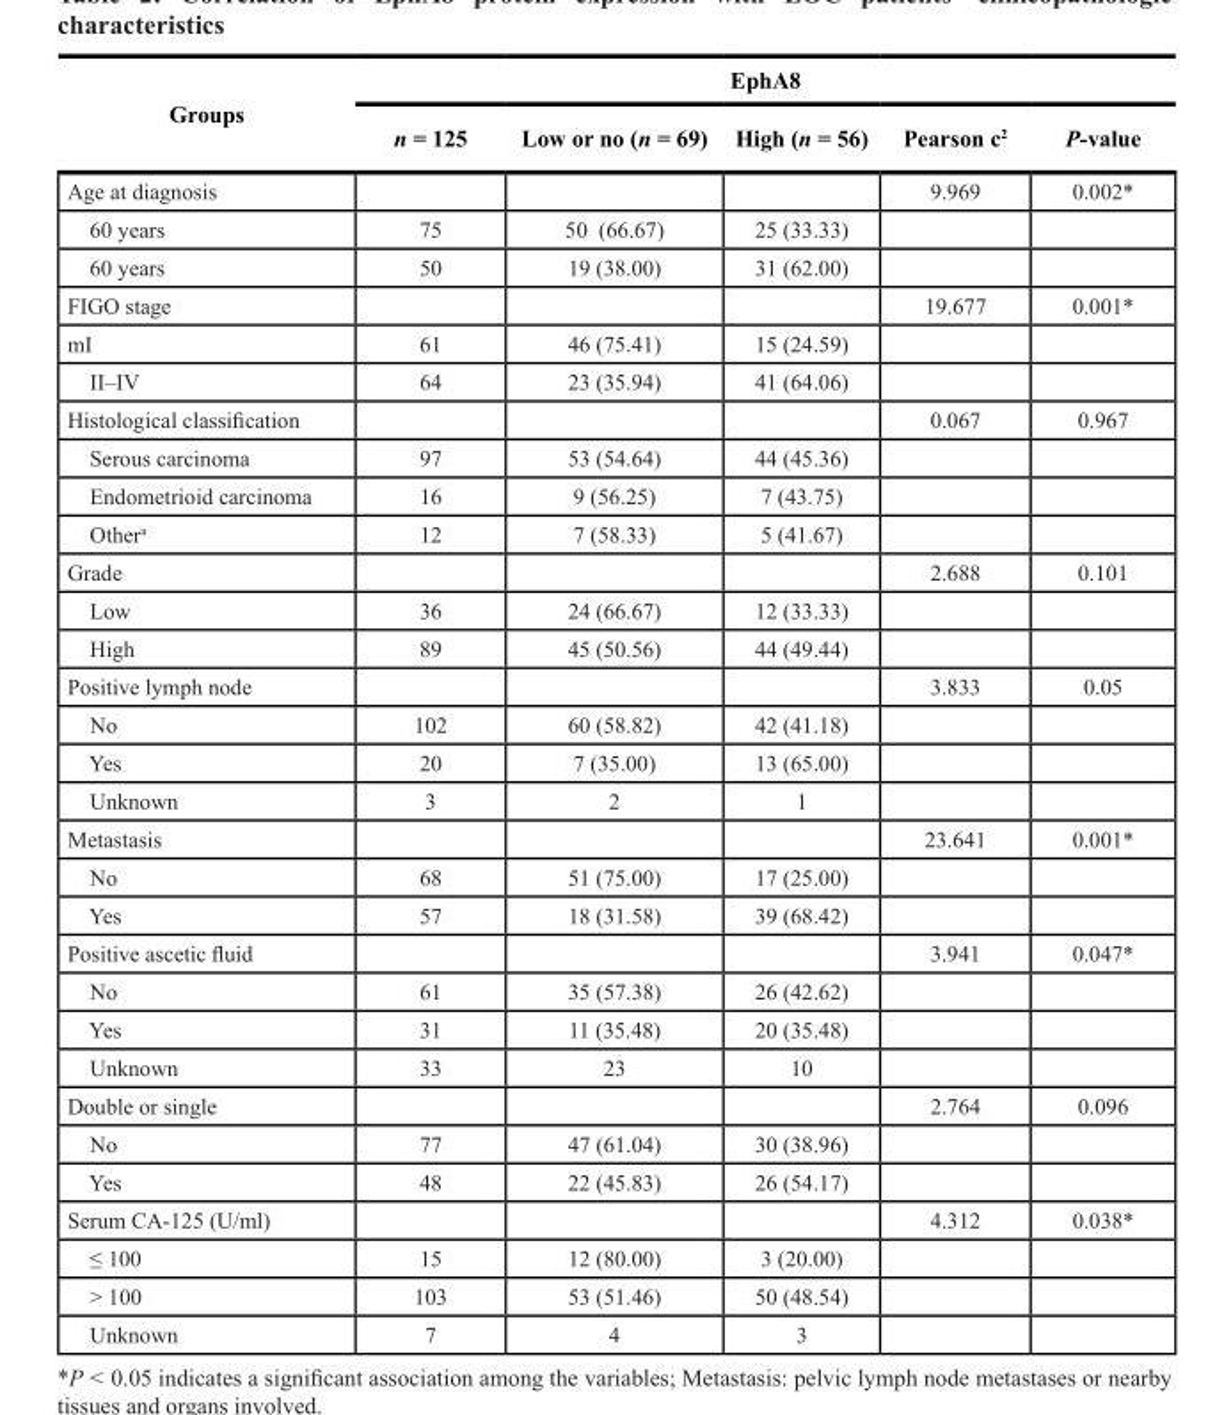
<table><thead><tr><td rowspan="2">Groups</td><td colspan="5">EphA8</td></tr><tr><td>n = 125</td><td>Low or no (n = 69)</td><td>High (n = 56)</td><td>Pearson c<sup>2</sup></td><td>P-value</td></tr></thead><tbody><tr><td>Age at diagnosis</td><td></td><td></td><td></td><td>9.969</td><td>0.002*</td></tr><tr><td>60 years</td><td>75</td><td>50 (66.67)</td><td>25 (33.33)</td><td></td><td></td></tr><tr><td>60 years</td><td>50</td><td>19 (38.00)</td><td>31 (62.00)</td><td></td><td></td></tr><tr><td>FIGO stage</td><td></td><td></td><td></td><td>19.677</td><td>0.001*</td></tr><tr><td>mI</td><td>61</td><td>46 (75.41)</td><td>15 (24.59)</td><td></td><td></td></tr><tr><td>II–IV</td><td>64</td><td>23 (35.94)</td><td>41 (64.06)</td><td></td><td></td></tr><tr><td>Histological classification</td><td></td><td></td><td></td><td>0.067</td><td>0.967</td></tr><tr><td>Serous carcinoma</td><td>97</td><td>53 (54.64)</td><td>44 (45.36)</td><td></td><td></td></tr><tr><td>Endometrioid carcinoma</td><td>16</td><td>9 (56.25)</td><td>7 (43.75)</td><td></td><td></td></tr><tr><td>Other<sup>a</sup></td><td>12</td><td>7 (58.33)</td><td>5 (41.67)</td><td></td><td></td></tr><tr><td>Grade</td><td></td><td></td><td></td><td>2.688</td><td>0.101</td></tr><tr><td>Low</td><td>36</td><td>24 (66.67)</td><td>12 (33.33)</td><td></td><td></td></tr><tr><td>High</td><td>89</td><td>45 (50.56)</td><td>44 (49.44)</td><td></td><td></td></tr><tr><td>Positive lymph node</td><td></td><td></td><td></td><td>3.833</td><td>0.05</td></tr><tr><td>No</td><td>102</td><td>60 (58.82)</td><td>42 (41.18)</td><td></td><td></td></tr><tr><td>Yes</td><td>20</td><td>7 (35.00)</td><td>13 (65.00)</td><td></td><td></td></tr><tr><td>Unknown</td><td>3</td><td>2</td><td>1</td><td></td><td></td></tr><tr><td>Metastasis</td><td></td><td></td><td></td><td>23.641</td><td>0.001*</td></tr><tr><td>No</td><td>68</td><td>51 (75.00)</td><td>17 (25.00)</td><td></td><td></td></tr><tr><td>Yes</td><td>57</td><td>18 (31.58)</td><td>39 (68.42)</td><td></td><td></td></tr><tr><td>Positive ascetic fluid</td><td></td><td></td><td></td><td>3.941</td><td>0.047*</td></tr><tr><td>No</td><td>61</td><td>35 (57.38)</td><td>26 (42.62)</td><td></td><td></td></tr><tr><td>Yes</td><td>31</td><td>11 (35.48)</td><td>20 (35.48)</td><td></td><td></td></tr><tr><td>Unknown</td><td>33</td><td>23</td><td>10</td><td></td><td></td></tr><tr><td>Double or single</td><td></td><td></td><td></td><td>2.764</td><td>0.096</td></tr><tr><td>No</td><td>77</td><td>47 (61.04)</td><td>30 (38.96)</td><td></td><td></td></tr><tr><td>Yes</td><td>48</td><td>22 (45.83)</td><td>26 (54.17)</td><td></td><td></td></tr><tr><td>Serum CA-125 (U/ml)</td><td></td><td></td><td></td><td>4.312</td><td>0.038*</td></tr><tr><td>≤ 100</td><td>15</td><td>12 (80.00)</td><td>3 (20.00)</td><td></td><td></td></tr><tr><td>&gt; 100</td><td>103</td><td>53 (51.46)</td><td>50 (48.54)</td><td></td><td></td></tr><tr><td>Unknown</td><td>7</td><td>4</td><td>3</td><td></td><td></td></tr></tbody></table>